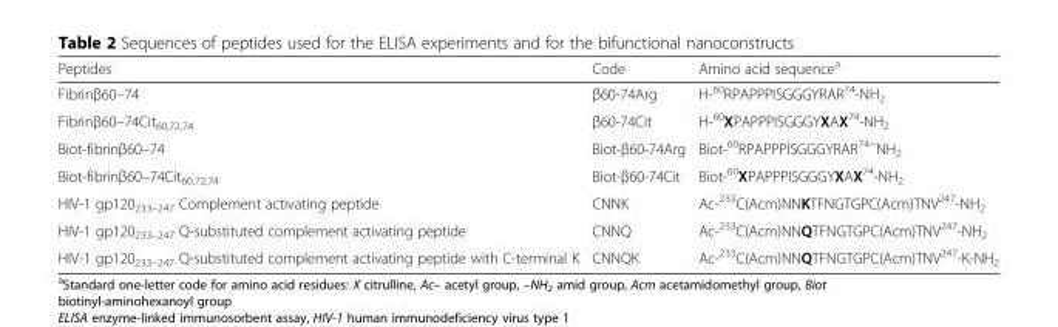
<table><thead><tr><td>Peptides</td><td>Code</td><td>Amino acid sequence<sup>a</sup></td></tr></thead><tbody><tr><td>Fibrinβ60–74</td><td>β60-74Arg</td><td>H-<sup>60</sup>RPAPPPISGGGYRAR<sup>74</sup>-NH<sub>2</sub></td></tr><tr><td>Fibrinβ60–74Cit<sub>60,72,74</sub></td><td>β60-74Cit</td><td>H-<sup>60</sup>XPAPPPISGGGYXAX<sup>74</sup>-NH<sub>2</sub></td></tr><tr><td>Biot-fibrinβ60–74</td><td>Biot-β60-74Arg</td><td>Biot-<sup>60</sup>RPAPPPISGGGYRAR<sup>74−</sup>NH<sub>2</sub></td></tr><tr><td>Biot-fibrinβ60–74Cit<sub>60,72,74</sub></td><td>Biot-β60-74Cit</td><td>Biot-<sup>60</sup>XPAPPPISGGGYXAX<sup>74</sup>-NH<sub>2</sub></td></tr><tr><td>HIV-1 gp120<sub>233–247</sub> Complement activating peptide</td><td>CNNK</td><td>Ac-<sup>233</sup>C(Acm)NNKTFNGTGPC(Acm)TNV<sup>247</sup>-NH<sub>2</sub></td></tr><tr><td>HIV-1 gp120<sub>233–247</sub> Q-substituted complement activating peptide</td><td>CNNQ</td><td>Ac-<sup>233</sup>C(Acm)NNQTFNGTGPC(Acm)TNV<sup>247</sup>-NH<sub>2</sub></td></tr><tr><td>HIV-1 gp120<sub>233–247</sub> Q-substituted complement activating peptide with C-terminal K</td><td>CNNQK</td><td>Ac-<sup>233</sup>C(Acm)NNQTFNGTGPC(Acm)TNV<sup>247</sup>-K-NH<sub>2</sub></td></tr></tbody></table>